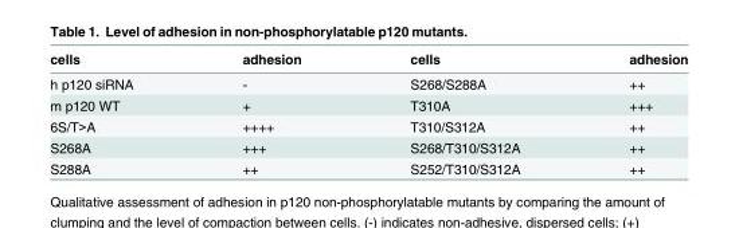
<table><thead><tr><td>cells</td><td>adhesion</td><td>cells</td><td>adhesion</td></tr></thead><tbody><tr><td>h p120 siRNA</td><td>-</td><td>S268/S288A</td><td>++</td></tr><tr><td>m p120 WT</td><td>+</td><td>T310A</td><td>+++</td></tr><tr><td>6S/T&gt;A</td><td>++++</td><td>T310/S312A</td><td>++</td></tr><tr><td>S268A</td><td>+++</td><td>S268/T310/S312A</td><td>++</td></tr><tr><td>S288A</td><td>++</td><td>S252/T310/S312A</td><td>++</td></tr></tbody></table>